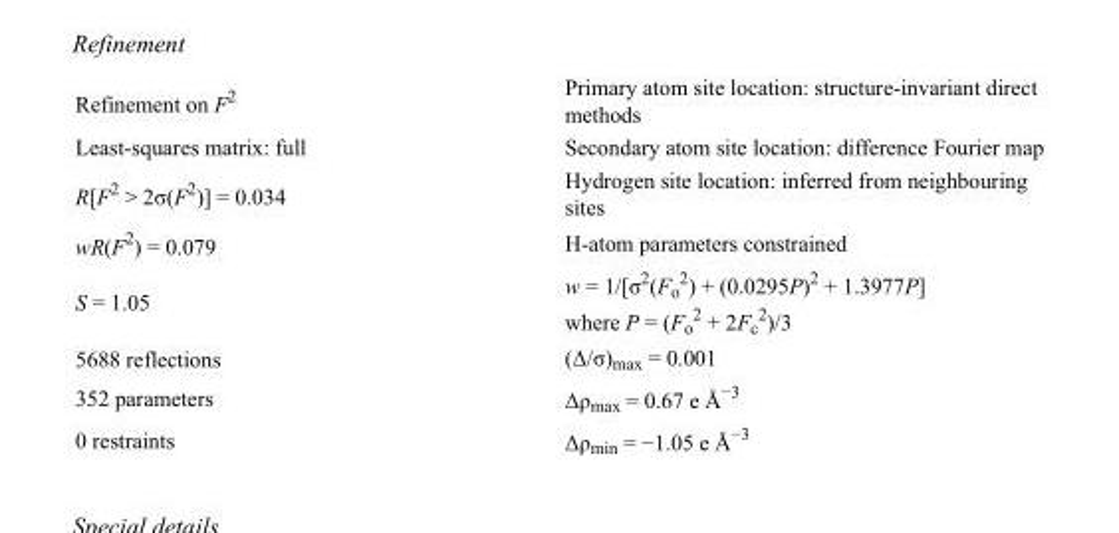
<table><tbody><tr><td>Refinement on F<sup>2</sup></td><td>Primary atom site location: structure-invariant direct methods</td></tr><tr><td>Least-squares matrix: full</td><td>Secondary atom site location: difference Fourier map</td></tr><tr><td>R[F<sup>2</sup> &gt; 2σ(F<sup>2</sup>)] = 0.034</td><td>Hydrogen site location: inferred from neighbouring sites</td></tr><tr><td>wR(F<sup>2</sup>) = 0.079</td><td>H-atom parameters constrained</td></tr><tr><td>S = 1.05</td><td>w = 1/[σ<sup>2</sup>(F<sub>o</sub> <sup>2</sup>) + (0.0295P)<sup>2</sup> + 1.3977P] where P = (F<sub>o</sub> <sup>2</sup> + 2F<sub>c</sub> <sup>2</sup>)/3</td></tr><tr><td>5688 reflections</td><td>(Δ/σ)<sub>max</sub> = 0.001</td></tr><tr><td>352 parameters</td><td>Δρ<sub>max</sub> = 0.67 e Å<sup>−3</sup></td></tr><tr><td>0 restraints</td><td>Δρ<sub>min</sub> = −1.05 e Å<sup>−3</sup></td></tr></tbody></table>